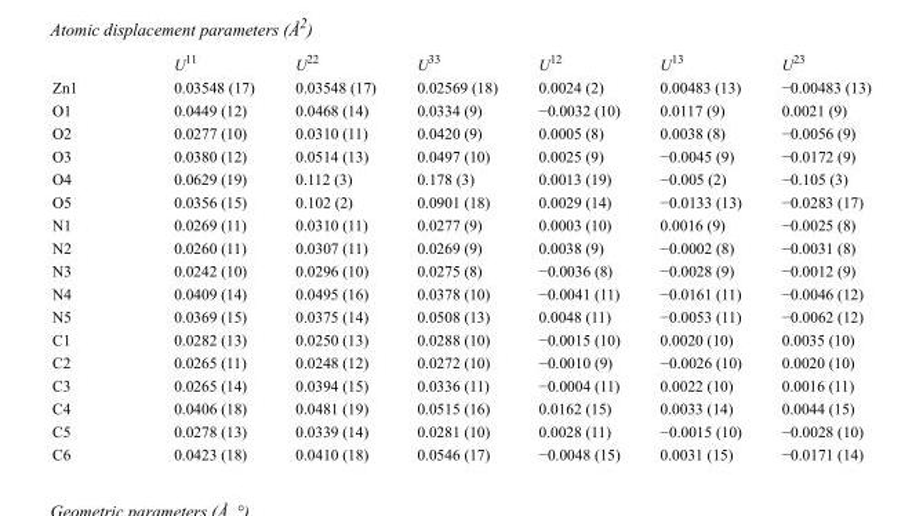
<table><thead><tr><td></td><td>U<sup>11</sup></td><td>U<sup>22</sup></td><td>U<sup>33</sup></td><td>U<sup>12</sup></td><td>U<sup>13</sup></td><td>U<sup>23</sup></td></tr></thead><tbody><tr><td>Zn1</td><td>0.03548 (17)</td><td>0.03548 (17)</td><td>0.02569 (18)</td><td>0.0024 (2)</td><td>0.00483 (13)</td><td>−0.00483 (13)</td></tr><tr><td>O1</td><td>0.0449 (12)</td><td>0.0468 (14)</td><td>0.0334 (9)</td><td>−0.0032 (10)</td><td>0.0117 (9)</td><td>0.0021 (9)</td></tr><tr><td>O2</td><td>0.0277 (10)</td><td>0.0310 (11)</td><td>0.0420 (9)</td><td>0.0005 (8)</td><td>0.0038 (8)</td><td>−0.0056 (9)</td></tr><tr><td>O3</td><td>0.0380 (12)</td><td>0.0514 (13)</td><td>0.0497 (10)</td><td>0.0025 (9)</td><td>−0.0045 (9)</td><td>−0.0172 (9)</td></tr><tr><td>O4</td><td>0.0629 (19)</td><td>0.112 (3)</td><td>0.178 (3)</td><td>0.0013 (19)</td><td>−0.005 (2)</td><td>−0.105 (3)</td></tr><tr><td>O5</td><td>0.0356 (15)</td><td>0.102 (2)</td><td>0.0901 (18)</td><td>0.0029 (14)</td><td>−0.0133 (13)</td><td>−0.0283 (17)</td></tr><tr><td>N1</td><td>0.0269 (11)</td><td>0.0310 (11)</td><td>0.0277 (9)</td><td>0.0003 (10)</td><td>0.0016 (9)</td><td>−0.0025 (8)</td></tr><tr><td>N2</td><td>0.0260 (11)</td><td>0.0307 (11)</td><td>0.0269 (9)</td><td>0.0038 (9)</td><td>−0.0002 (8)</td><td>−0.0031 (8)</td></tr><tr><td>N3</td><td>0.0242 (10)</td><td>0.0296 (10)</td><td>0.0275 (8)</td><td>−0.0036 (8)</td><td>−0.0028 (9)</td><td>−0.0012 (9)</td></tr><tr><td>N4</td><td>0.0409 (14)</td><td>0.0495 (16)</td><td>0.0378 (10)</td><td>−0.0041 (11)</td><td>−0.0161 (11)</td><td>−0.0046 (12)</td></tr><tr><td>N5</td><td>0.0369 (15)</td><td>0.0375 (14)</td><td>0.0508 (13)</td><td>0.0048 (11)</td><td>−0.0053 (11)</td><td>−0.0062 (12)</td></tr><tr><td>C1</td><td>0.0282 (13)</td><td>0.0250 (13)</td><td>0.0288 (10)</td><td>−0.0015 (10)</td><td>0.0020 (10)</td><td>0.0035 (10)</td></tr><tr><td>C2</td><td>0.0265 (11)</td><td>0.0248 (12)</td><td>0.0272 (10)</td><td>−0.0010 (9)</td><td>−0.0026 (10)</td><td>0.0020 (10)</td></tr><tr><td>C3</td><td>0.0265 (14)</td><td>0.0394 (15)</td><td>0.0336 (11)</td><td>−0.0004 (11)</td><td>0.0022 (10)</td><td>0.0016 (11)</td></tr><tr><td>C4</td><td>0.0406 (18)</td><td>0.0481 (19)</td><td>0.0515 (16)</td><td>0.0162 (15)</td><td>0.0033 (14)</td><td>0.0044 (15)</td></tr><tr><td>C5</td><td>0.0278 (13)</td><td>0.0339 (14)</td><td>0.0281 (10)</td><td>0.0028 (11)</td><td>−0.0015 (10)</td><td>−0.0028 (10)</td></tr><tr><td>C6</td><td>0.0423 (18)</td><td>0.0410 (18)</td><td>0.0546 (17)</td><td>−0.0048 (15)</td><td>0.0031 (15)</td><td>−0.0171 (14)</td></tr></tbody></table>